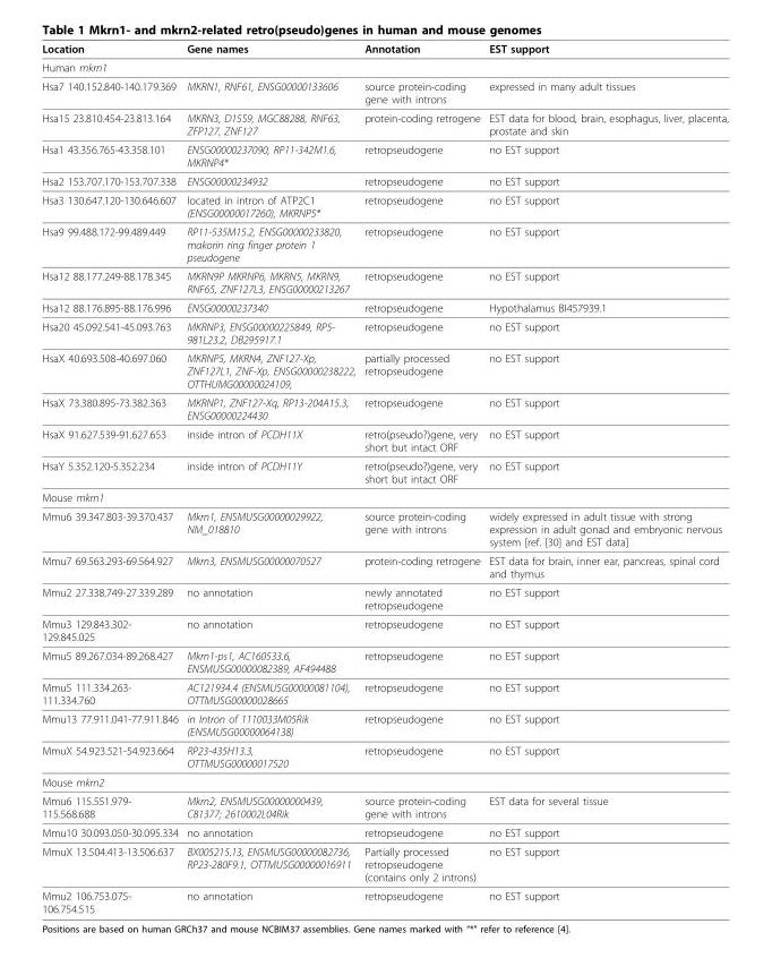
<table><thead><tr><td>Location</td><td>Gene names</td><td>Annotation</td><td>EST support</td></tr></thead><tbody><tr><td colspan="4">Human mkrn1</td></tr><tr><td>Hsa7 140.152.840-140.179.369</td><td>MKRN1, RNF61, ENSG00000133606</td><td>source protein-coding gene with introns</td><td>expressed in many adult tissues</td></tr><tr><td>Hsa15 23.810.454-23.813.164</td><td>MKRN3, D15S9, MGC88288, RNF63, ZFP127, ZNF127</td><td>protein-coding retrogene</td><td>EST data for blood, brain, esophagus, liver, placenta, prostate and skin</td></tr><tr><td>Hsa1 43.356.765-43.358.101</td><td>ENSG00000237090, RP11-342M1.6, MKRNP4*</td><td>retropseudogene</td><td>no EST support</td></tr><tr><td>Hsa2 153.707.170-153.707.338</td><td>ENSG00000234932</td><td>retropseudogene</td><td>no EST support</td></tr><tr><td>Hsa3 130.647.120-130.646.607</td><td>located in intron of ATP2C1 (ENSG00000017260), MKRNP5*</td><td>retropseudogene</td><td>no EST support</td></tr><tr><td>Hsa9 99.488.172-99.489.449</td><td>RP11-535M15.2, ENSG00000233820, makorin ring finger protein 1 pseudogene</td><td>retropseudogene</td><td>no EST support</td></tr><tr><td>Hsa12 88.177.249-88.178.345</td><td>MKRN9P MKRNP6, MKRN5, MKRN9, RNF65, ZNF127L3, ENSG00000213267</td><td>retropseudogene</td><td>no EST support</td></tr><tr><td>Hsa12 88.176.895-88.176.996</td><td>ENSG00000237340</td><td>retropseudogene</td><td>Hypothalamus BI457939.1</td></tr><tr><td>Hsa20 45.092.541-45.093.763</td><td>MKRNP3, ENSG00000225849, RP5- 981L23.2, DB295917.1</td><td>retropseudogene</td><td>no EST support</td></tr><tr><td>HsaX 40.693.508-40.697.060</td><td>MKRNP5, MKRN4, ZNF127-Xp, ZNF127L1, ZNF-Xp, ENSG00000238222, OTTHUMG00000024109,</td><td>partially processed retropseudogene</td><td>no EST support</td></tr><tr><td>HsaX 73.380.895-73.382.363</td><td>MKRNP1, ZNF127-Xq, RP13-204A15.3, ENSG00000224430</td><td>retropseudogene</td><td>no EST support</td></tr><tr><td>HsaX 91.627.539-91.627.653</td><td>inside intron of PCDH11X</td><td>retro(pseudo?)gene, very short but intact ORF</td><td>no EST support</td></tr><tr><td>HsaY 5.352.120-5.352.234</td><td>inside intron of PCDH11Y</td><td>retro(pseudo?)gene, very short but intact ORF</td><td>no EST support</td></tr><tr><td colspan="4">Mouse mkrn1</td></tr><tr><td>Mmu6 39.347.803-39.370.437</td><td>Mkrn1, ENSMUSG00000029922, NM_018810</td><td>source protein-coding gene with introns</td><td>widely expressed in adult tissue with strong expression in adult gonad and embryonic nervous system [ref. [30] and EST data]</td></tr><tr><td>Mmu7 69.563.293-69.564.927</td><td>Mkrn3, ENSMUSG00000070527</td><td>protein-coding retrogene</td><td>EST data for brain, inner ear, pancreas, spinal cord and thymus</td></tr><tr><td>Mmu2 27.338.749-27.339.289</td><td>no annotation</td><td>newly annotated retropseudogene</td><td>no EST support</td></tr><tr><td>Mmu3 129.843.302- 129.845.025</td><td>no annotation</td><td>retropseudogene</td><td>no EST support</td></tr><tr><td>Mmu5 89.267.034-89.268.427</td><td>Mkrn1-ps1, AC160533.6, ENSMUSG00000082389, AF494488</td><td>retropseudogene</td><td>no EST support</td></tr><tr><td>Mmu5 111.334.263- 111.334.760</td><td>AC121934.4 (ENSMUSG00000081104), OTTMUSG00000028665</td><td>retropseudogene</td><td>no EST support</td></tr><tr><td>Mmu13 77.911.041-77.911.846</td><td>in Intron of 1110033M05Rik (ENSMUSG00000064138)</td><td>retropseudogene</td><td>no EST support</td></tr><tr><td>MmuX 54.923.521-54.923.664</td><td>RP23-435H13.3, OTTMUSG00000017520</td><td>retropseudogene</td><td>no EST support</td></tr><tr><td colspan="4">Mouse mkrn2</td></tr><tr><td>Mmu6 115.551.979- 115.568.688</td><td>Mkrn2, ENSMUSG00000000439, C81377; 2610002L04Rik</td><td>source protein-coding gene with introns</td><td>EST data for several tissue</td></tr><tr><td>Mmu10 30.093.050-30.095.334</td><td>no annotation</td><td>retropseudogene</td><td>no EST support</td></tr><tr><td>MmuX 13.504.413-13.506.637</td><td>BX005215.13, ENSMUSG00000082736, RP23-280F9.1, OTTMUSG00000016911</td><td>Partially processed retropseudogene (contains only 2 introns)</td><td>no EST support</td></tr><tr><td>Mmu2 106.753.075- 106.754.515</td><td>no annotation</td><td>retropseudogene</td><td>no EST support</td></tr></tbody></table>